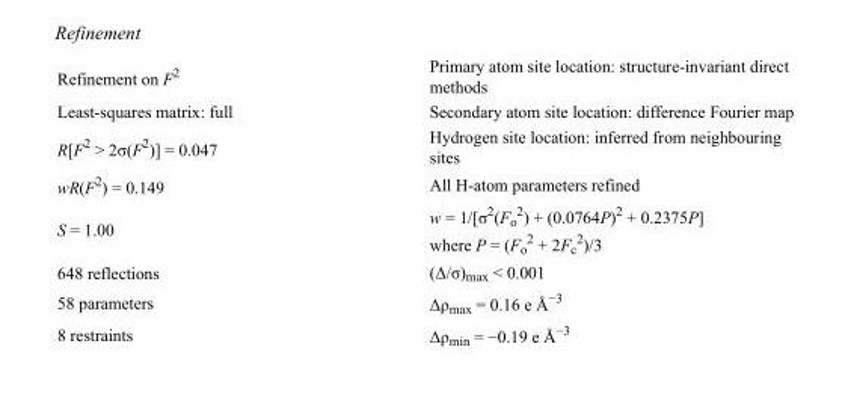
<table><tbody><tr><td>Refinement on F<sup>2</sup></td><td>Primary atom site location: structure-invariant direct methods</td></tr><tr><td>Least-squares matrix: full</td><td>Secondary atom site location: difference Fourier map</td></tr><tr><td>R[F<sup>2</sup> &gt; 2σ(F<sup>2</sup>)] = 0.047</td><td>Hydrogen site location: inferred from neighbouring sites</td></tr><tr><td>wR(F<sup>2</sup>) = 0.149</td><td>All H-atom parameters refined</td></tr><tr><td>S = 1.00</td><td>w = 1/[σ<sup>2</sup>(F<sub>o</sub> <sup>2</sup>) + (0.0764P)<sup>2</sup> + 0.2375P] where P = (F<sub>o</sub> <sup>2</sup> + 2F<sub>c</sub> <sup>2</sup>)/3</td></tr><tr><td>648 reflections</td><td>(Δ/σ)<sub>max</sub> &lt; 0.001</td></tr><tr><td>58 parameters</td><td>Δρ<sub>max</sub> = 0.16 e Å<sup>−3</sup></td></tr><tr><td>8 restraints</td><td>Δρ<sub>min</sub> = −0.19 e Å<sup>−3</sup></td></tr></tbody></table>